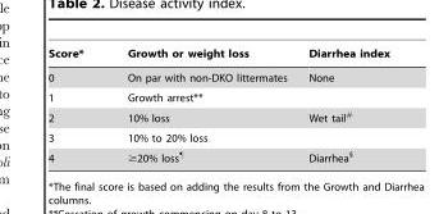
<table><thead><tr><td>Score*</td><td>Growth or weight loss</td><td>Diarrhea index</td></tr></thead><tbody><tr><td>0</td><td>On par with non-DKO littermates</td><td>None</td></tr><tr><td>1</td><td>Growth arrest**</td><td></td></tr><tr><td>2</td><td>10% loss</td><td>Wet tail#</td></tr><tr><td>3</td><td>10% to 20% loss</td><td></td></tr><tr><td>4</td><td>≥20% loss¶</td><td>Diarrhea§</td></tr></tbody></table>